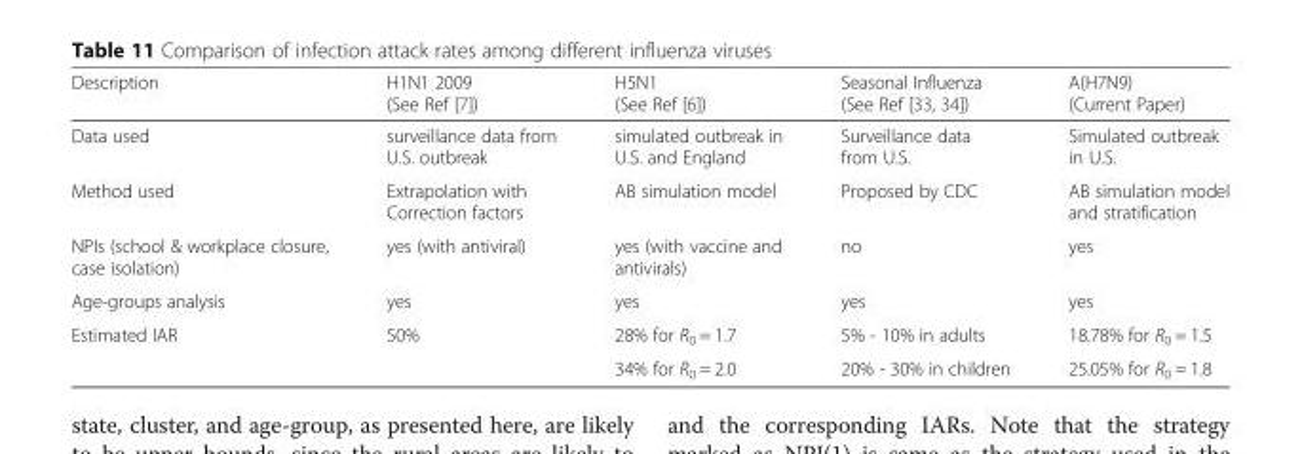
<table><thead><tr><td>Description</td><td>H1N1 2009 (See Ref [7])</td><td>H5N1 (See Ref [6])</td><td>Seasonal Influenza (See Ref [33, 34])</td><td>A(H7N9) (Current Paper)</td></tr></thead><tbody><tr><td>Data used</td><td>surveillance data from U.S. outbreak</td><td>simulated outbreak in U.S. and England</td><td>Surveillance data from U.S.</td><td>Simulated outbreak in U.S.</td></tr><tr><td>Method used</td><td>Extrapolation with Correction factors</td><td>AB simulation model</td><td>Proposed by CDC</td><td>AB simulation model and stratification</td></tr><tr><td>NPIs (school &amp; workplace closure, case isolation)</td><td>yes (with antiviral)</td><td>yes (with vaccine and antivirals)</td><td>no</td><td>yes</td></tr><tr><td>Age-groups analysis</td><td>yes</td><td>yes</td><td>yes</td><td>yes</td></tr><tr><td rowspan="2">Estimated IAR</td><td rowspan="2">50%</td><td>28% for R<sub>0</sub> = 1.7</td><td>5% - 10% in adults</td><td>18.78% for R<sub>0</sub> = 1.5</td></tr><tr><td>34% for R<sub>0</sub> = 2.0</td><td>20% - 30% in children</td><td>25.05% for R<sub>0</sub> = 1.8</td></tr></tbody></table>